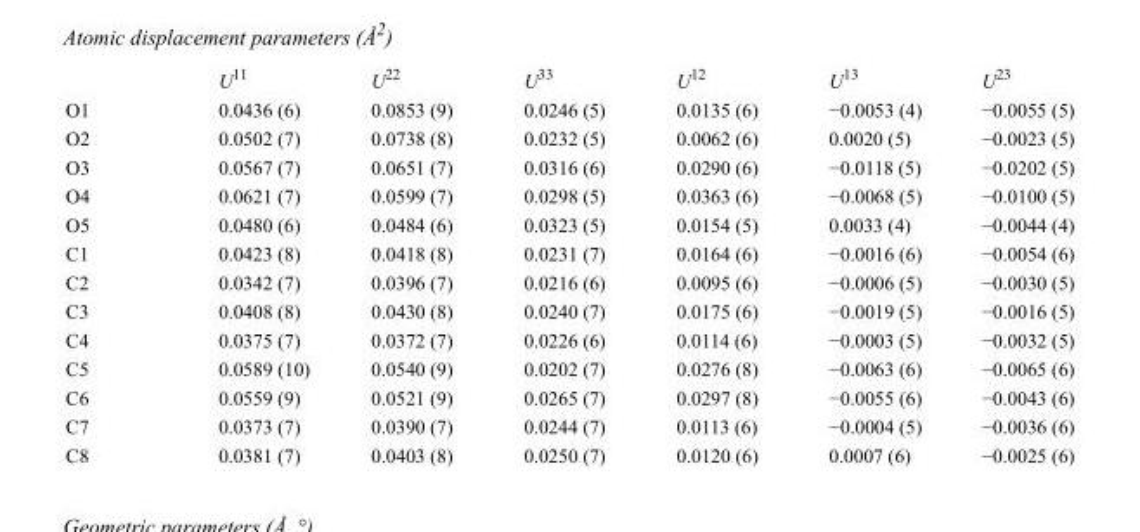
<table><thead><tr><td></td><td>U<sup>11</sup></td><td>U<sup>22</sup></td><td>U<sup>33</sup></td><td>U<sup>12</sup></td><td>U<sup>13</sup></td><td>U<sup>23</sup></td></tr></thead><tbody><tr><td>O1</td><td>0.0436 (6)</td><td>0.0853 (9)</td><td>0.0246 (5)</td><td>0.0135 (6)</td><td>−0.0053 (4)</td><td>−0.0055 (5)</td></tr><tr><td>O2</td><td>0.0502 (7)</td><td>0.0738 (8)</td><td>0.0232 (5)</td><td>0.0062 (6)</td><td>0.0020 (5)</td><td>−0.0023 (5)</td></tr><tr><td>O3</td><td>0.0567 (7)</td><td>0.0651 (7)</td><td>0.0316 (6)</td><td>0.0290 (6)</td><td>−0.0118 (5)</td><td>−0.0202 (5)</td></tr><tr><td>O4</td><td>0.0621 (7)</td><td>0.0599 (7)</td><td>0.0298 (5)</td><td>0.0363 (6)</td><td>−0.0068 (5)</td><td>−0.0100 (5)</td></tr><tr><td>O5</td><td>0.0480 (6)</td><td>0.0484 (6)</td><td>0.0323 (5)</td><td>0.0154 (5)</td><td>0.0033 (4)</td><td>−0.0044 (4)</td></tr><tr><td>C1</td><td>0.0423 (8)</td><td>0.0418 (8)</td><td>0.0231 (7)</td><td>0.0164 (6)</td><td>−0.0016 (6)</td><td>−0.0054 (6)</td></tr><tr><td>C2</td><td>0.0342 (7)</td><td>0.0396 (7)</td><td>0.0216 (6)</td><td>0.0095 (6)</td><td>−0.0006 (5)</td><td>−0.0030 (5)</td></tr><tr><td>C3</td><td>0.0408 (8)</td><td>0.0430 (8)</td><td>0.0240 (7)</td><td>0.0175 (6)</td><td>−0.0019 (5)</td><td>−0.0016 (5)</td></tr><tr><td>C4</td><td>0.0375 (7)</td><td>0.0372 (7)</td><td>0.0226 (6)</td><td>0.0114 (6)</td><td>−0.0003 (5)</td><td>−0.0032 (5)</td></tr><tr><td>C5</td><td>0.0589 (10)</td><td>0.0540 (9)</td><td>0.0202 (7)</td><td>0.0276 (8)</td><td>−0.0063 (6)</td><td>−0.0065 (6)</td></tr><tr><td>C6</td><td>0.0559 (9)</td><td>0.0521 (9)</td><td>0.0265 (7)</td><td>0.0297 (8)</td><td>−0.0055 (6)</td><td>−0.0043 (6)</td></tr><tr><td>C7</td><td>0.0373 (7)</td><td>0.0390 (7)</td><td>0.0244 (7)</td><td>0.0113 (6)</td><td>−0.0004 (5)</td><td>−0.0036 (6)</td></tr><tr><td>C8</td><td>0.0381 (7)</td><td>0.0403 (8)</td><td>0.0250 (7)</td><td>0.0120 (6)</td><td>0.0007 (6)</td><td>−0.0025 (6)</td></tr></tbody></table>